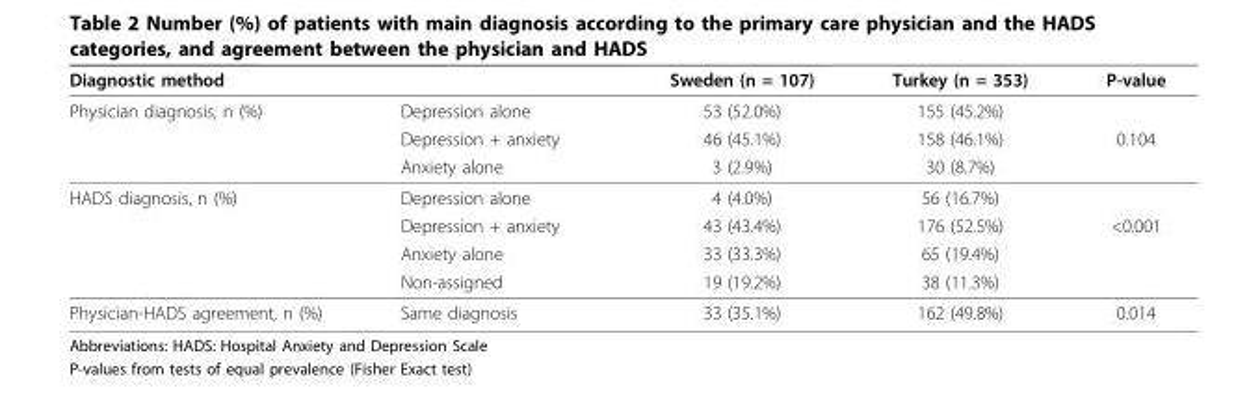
<table><thead><tr><td colspan="2">Diagnostic method</td><td rowspan="2">Sweden (n = 107) 53 (52.0%)</td><td rowspan="2">Turkey (n = 353) 155 (45.2%)</td><td rowspan="2">P-value</td></tr><tr><td>Physician diagnosis, n (%)</td><td>Depression alone</td></tr></thead><tbody><tr><td></td><td>Depression + anxiety</td><td>46 (45.1%)</td><td>158 (46.1%)</td><td>0.104</td></tr><tr><td></td><td>Anxiety alone</td><td>3 (2.9%)</td><td>30 (8.7%)</td><td></td></tr><tr><td rowspan="4">HADS diagnosis, n (%)</td><td>Depression alone</td><td>4 (4.0%)</td><td>56 (16.7%)</td><td></td></tr><tr><td>Depression + anxiety</td><td>43 (43.4%)</td><td>176 (52.5%)</td><td>&lt;0.001</td></tr><tr><td>Anxiety alone</td><td>33 (33.3%)</td><td>65 (19.4%)</td><td></td></tr><tr><td>Non-assigned</td><td>19 (19.2%)</td><td>38 (11.3%)</td><td></td></tr><tr><td>Physician-HADS agreement, n (%)</td><td>Same diagnosis</td><td>33 (35.1%)</td><td>162 (49.8%)</td><td>0.014</td></tr></tbody></table>